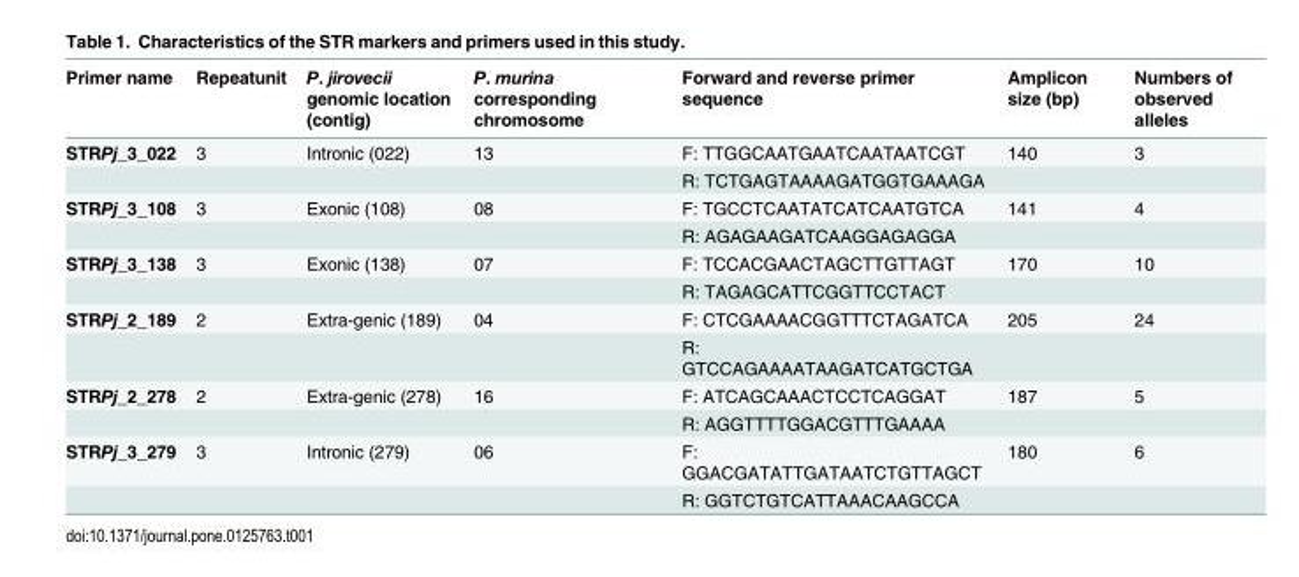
<table><thead><tr><td>Primer name</td><td>Repeatunit</td><td>P. jirovecii genomic location (contig)</td><td>P. murina corresponding chromosome</td><td>Forward and reverse primer sequence</td><td>Amplicon size (bp)</td><td>Numbers of observed alleles</td></tr></thead><tbody><tr><td rowspan="2">STRPj_3_022</td><td>3</td><td>Intronic (022)</td><td>13</td><td>F: TTGGCAATGAATCAATAATCGT</td><td>140</td><td>3</td></tr><tr><td></td><td></td><td></td><td>R: TCTGAGTAAAAGATGGTGAAAGA</td><td></td><td></td></tr><tr><td rowspan="2">STRPj_3_108</td><td>3</td><td>Exonic (108)</td><td>08</td><td>F: TGCCTCAATATCATCAATGTCA</td><td>141</td><td>4</td></tr><tr><td></td><td></td><td></td><td>R: AGAGAAGATCAAGGAGAGGA</td><td></td><td></td></tr><tr><td rowspan="2">STRPj_3_138</td><td>3</td><td>Exonic (138)</td><td>07</td><td>F: TCCACGAACTAGCTTGTTAGT</td><td>170</td><td>10</td></tr><tr><td></td><td></td><td></td><td>R: TAGAGCATTCGGTTCCTACT</td><td></td><td></td></tr><tr><td rowspan="2">STRPj_2_189</td><td>2</td><td>Extra-genic (189)</td><td>04</td><td>F: CTCGAAAACGGTTTCTAGATCA</td><td>205</td><td>24</td></tr><tr><td></td><td></td><td></td><td>R: GTCCAGAAAATAAGATCATGCTGA</td><td></td><td></td></tr><tr><td rowspan="2">STRPj_2_278</td><td>2</td><td>Extra-genic (278)</td><td>16</td><td>F: ATCAGCAAACTCCTCAGGAT</td><td>187</td><td>5</td></tr><tr><td></td><td></td><td></td><td>R: AGGTTTTGGACGTTTGAAAA</td><td></td><td></td></tr><tr><td rowspan="2">STRPj_3_279</td><td>3</td><td>Intronic (279)</td><td>06</td><td>F: GGACGATATTGATAATCTGTTAGCT</td><td>180</td><td>6</td></tr><tr><td></td><td></td><td></td><td>R: GGTCTGTCATTAAACAAGCCA</td><td></td><td></td></tr></tbody></table>